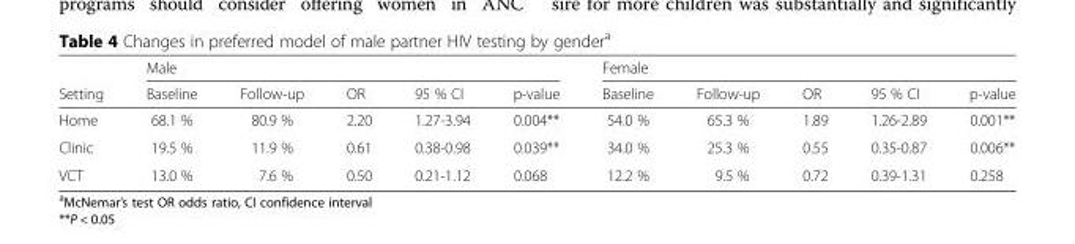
<table><thead><tr><td rowspan="2">Setting</td><td colspan="5">Male</td><td colspan="5">Female</td></tr><tr><td>Baseline</td><td>Follow-up</td><td>OR</td><td>95 % CI</td><td>p-value</td><td>Baseline</td><td>Follow-up</td><td>OR</td><td>95 % CI</td><td>p-value</td></tr></thead><tbody><tr><td>Home</td><td>68.1 %</td><td>80.9 %</td><td>2.20</td><td>1.27-3.94</td><td>0.004**</td><td>54.0 %</td><td>65.3 %</td><td>1.89</td><td>1.26-2.89</td><td>0.001**</td></tr><tr><td>Clinic</td><td>19.5 %</td><td>11.9 %</td><td>0.61</td><td>0.38-0.98</td><td>0.039**</td><td>34.0 %</td><td>25.3 %</td><td>0.55</td><td>0.35-0.87</td><td>0.006**</td></tr><tr><td>VCT</td><td>13.0 %</td><td>7.6 %</td><td>0.50</td><td>0.21-1.12</td><td>0.068</td><td>12.2 %</td><td>9.5 %</td><td>0.72</td><td>0.39-1.31</td><td>0.258</td></tr></tbody></table>